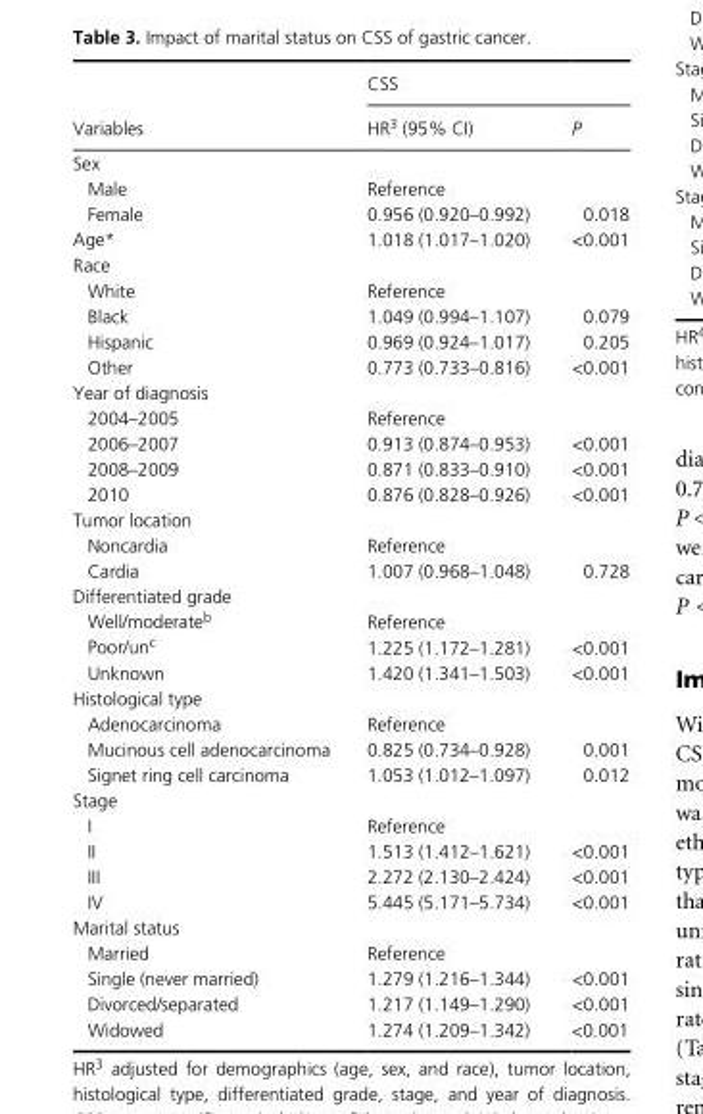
<table><thead><tr><td rowspan="2">Variables</td><td colspan="2">CSS</td></tr><tr><td>HR<sup>3</sup> (95% CI)</td><td>P</td></tr></thead><tbody><tr><td colspan="3">Sex</td></tr><tr><td>Male</td><td>Reference</td><td></td></tr><tr><td>Female</td><td>0.956 (0.920–0.992)</td><td>0.018</td></tr><tr><td>Age*</td><td>1.018 (1.017–1.020)</td><td>&lt;0.001</td></tr><tr><td colspan="3">Race</td></tr><tr><td>White</td><td>Reference</td><td></td></tr><tr><td>Black</td><td>1.049 (0.994–1.107)</td><td>0.079</td></tr><tr><td>Hispanic</td><td>0.969 (0.924–1.017)</td><td>0.205</td></tr><tr><td>Other</td><td>0.773 (0.733–0.816)</td><td>&lt;0.001</td></tr><tr><td colspan="3">Year of diagnosis</td></tr><tr><td>2004–2005</td><td>Reference</td><td></td></tr><tr><td>2006–2007</td><td>0.913 (0.874–0.953)</td><td>&lt;0.001</td></tr><tr><td>2008–2009</td><td>0.871 (0.833–0.910)</td><td>&lt;0.001</td></tr><tr><td>2010</td><td>0.876 (0.828–0.926)</td><td>&lt;0.001</td></tr><tr><td colspan="3">Tumor location</td></tr><tr><td>Noncardia</td><td>Reference</td><td></td></tr><tr><td>Cardia</td><td>1.007 (0.968–1.048)</td><td>0.728</td></tr><tr><td colspan="3">Differentiated grade</td></tr><tr><td>Well/moderate<sup>b</sup></td><td>Reference</td><td></td></tr><tr><td>Poor/un<sup>c</sup></td><td>1.225 (1.172–1.281)</td><td>&lt;0.001</td></tr><tr><td>Unknown</td><td>1.420 (1.341–1.503)</td><td>&lt;0.001</td></tr><tr><td colspan="3">Histological type</td></tr><tr><td>Adenocarcinoma</td><td>Reference</td><td></td></tr><tr><td>Mucinous cell adenocarcinoma</td><td>0.825 (0.734–0.928)</td><td>0.001</td></tr><tr><td>Signet ring cell carcinoma</td><td>1.053 (1.012–1.097)</td><td>0.012</td></tr><tr><td colspan="3">Stage</td></tr><tr><td>I</td><td>Reference</td><td></td></tr><tr><td>II</td><td>1.513 (1.412–1.621)</td><td>&lt;0.001</td></tr><tr><td>III</td><td>2.272 (2.130–2.424)</td><td>&lt;0.001</td></tr><tr><td>IV</td><td>5.445 (5.171–5.734)</td><td>&lt;0.001</td></tr><tr><td colspan="3">Marital status</td></tr><tr><td>Married</td><td>Reference</td><td></td></tr><tr><td>Single (never married)</td><td>1.279 (1.216–1.344)</td><td>&lt;0.001</td></tr><tr><td>Divorced/separated</td><td>1.217 (1.149–1.290)</td><td>&lt;0.001</td></tr><tr><td>Widowed</td><td>1.274 (1.209–1.342)</td><td>&lt;0.001</td></tr></tbody></table>